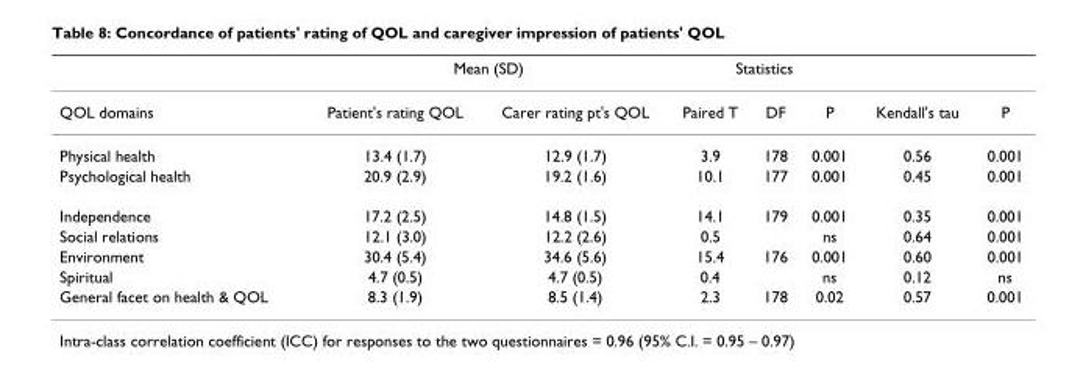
<table><thead><tr><td rowspan="2">QOL domains</td><td colspan="2">Mean (SD)</td><td colspan="3">Statistics</td><td rowspan="2">Kendall&#x27;s tau</td><td rowspan="2">P</td></tr><tr><td>Patient&#x27;s rating QOL</td><td>Carer rating pt&#x27;s QOL</td><td>Paired T</td><td>DF</td><td>P</td></tr></thead><tbody><tr><td>Physical health</td><td>13.4 (1.7)</td><td>12.9 (1.7)</td><td>3.9</td><td>178</td><td>0.001</td><td>0.56</td><td>0.001</td></tr><tr><td>Psychological health</td><td>20.9 (2.9)</td><td>19.2 (1.6)</td><td>10.1</td><td>177</td><td>0.001</td><td>0.45</td><td>0.001</td></tr><tr><td>Independence</td><td>17.2 (2.5)</td><td>14.8 (1.5)</td><td>14.1</td><td>179</td><td>0.001</td><td>0.35</td><td>0.001</td></tr><tr><td>Social relations</td><td>12.1 (3.0)</td><td>12.2 (2.6)</td><td>0.5</td><td></td><td>ns</td><td>0.64</td><td>0.001</td></tr><tr><td>Environment</td><td>30.4 (5.4)</td><td>34.6 (5.6)</td><td>15.4</td><td>176</td><td>0.001</td><td>0.60</td><td>0.001</td></tr><tr><td>Spiritual</td><td>4.7 (0.5)</td><td>4.7 (0.5)</td><td>0.4</td><td></td><td>ns</td><td>0.12</td><td>ns</td></tr><tr><td>General facet on health &amp; QOL</td><td>8.3 (1.9)</td><td>8.5 (1.4)</td><td>2.3</td><td>178</td><td>0.02</td><td>0.57</td><td>0.001</td></tr></tbody></table>